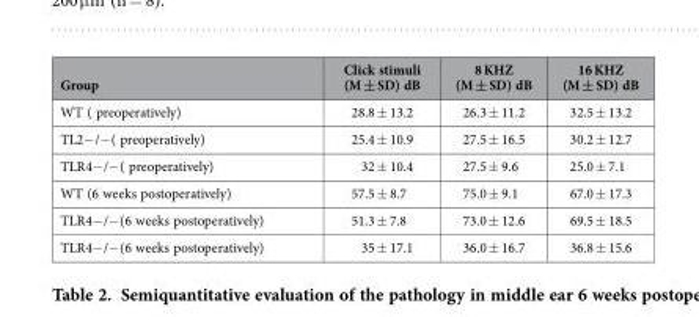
<table><thead><tr><td>Group</td><td>Click stimuli (M ± SD) dB</td><td>8 KHZ (M ± SD) dB</td><td>16 KHZ (M ± SD) dB</td></tr></thead><tbody><tr><td>WT ( preoperatively)</td><td>28.8 ± 13.2</td><td>26.3 ± 11.2</td><td>32.5 ± 13.2</td></tr><tr><td>TL2− /− ( preoperatively)</td><td>25.4 ± 10.9</td><td>27.5 ± 16.5</td><td>30.2 ± 12.7</td></tr><tr><td>TLR4− /− ( preoperatively)</td><td>32 ± 10.4</td><td>27.5 ± 9.6</td><td>25.0 ± 7.1</td></tr><tr><td>WT (6 weeks postoperatively)</td><td>57.5 ± 8.7</td><td>75.0 ± 9.1</td><td>67.0 ± 17.3</td></tr><tr><td>TLR4− /− (6 weeks postoperatively)</td><td>51.3 ± 7.8</td><td>73.0 ± 12.6</td><td>69.5 ± 18.5</td></tr><tr><td>TLR4− /− (6 weeks postoperatively)</td><td>35 ± 17.1</td><td>36.0 ± 16.7</td><td>36.8 ± 15.6</td></tr></tbody></table>